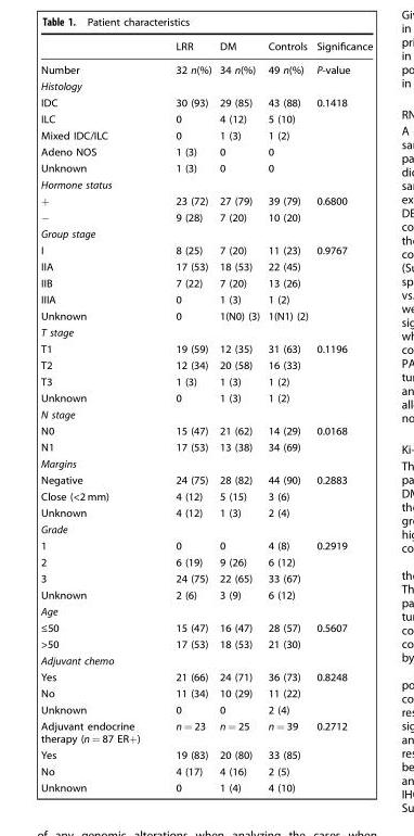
<table><thead><tr><td></td><td>LRR</td><td>DM</td><td>Controls</td><td>Significance</td></tr></thead><tbody><tr><td>Number</td><td>32 n(%)</td><td>34 n(%)</td><td>49 n(%)</td><td>P-value</td></tr><tr><td colspan="5">Histology</td></tr><tr><td>IDC</td><td>30 (93)</td><td>29 (85)</td><td>43 (88)</td><td rowspan="5">0.1418</td></tr><tr><td>ILC</td><td>0</td><td>4 (12)</td><td>5 (10)</td></tr><tr><td>Mixed IDC/ILC</td><td>0</td><td>1 (3)</td><td>1 (2)</td></tr><tr><td>Adeno NOS</td><td>1 (3)</td><td>0</td><td>0</td></tr><tr><td>Unknown</td><td>1 (3)</td><td>0</td><td>0</td></tr><tr><td colspan="5">Hormone status</td></tr><tr><td>+</td><td>23 (72)</td><td>27 (79)</td><td>39 (79)</td><td rowspan="2">0.6800</td></tr><tr><td>−</td><td>9 (28)</td><td>7 (20)</td><td>10 (20)</td></tr><tr><td colspan="5">Group stage</td></tr><tr><td>I</td><td>8 (25)</td><td>7 (20)</td><td>11 (23)</td><td rowspan="5">0.9767</td></tr><tr><td>IIA</td><td>17 (53)</td><td>18 (53)</td><td>22 (45)</td></tr><tr><td>IIB</td><td>7 (22)</td><td>7 (20)</td><td>13 (26)</td></tr><tr><td>IIIA</td><td>0</td><td>1 (3)</td><td>1 (2)</td></tr><tr><td>Unknown</td><td>0</td><td>1(N0) (3)</td><td>1(N1) (2)</td></tr><tr><td colspan="5">T stage</td></tr><tr><td>T1</td><td>19 (59)</td><td>12 (35)</td><td>31 (63)</td><td rowspan="4">0.1196</td></tr><tr><td>T2</td><td>12 (34)</td><td>20 (58)</td><td>16 (33)</td></tr><tr><td>T3</td><td>1 (3)</td><td>1 (3)</td><td>1 (2)</td></tr><tr><td>Unknown</td><td>0</td><td>1 (3)</td><td>1 (2)</td></tr><tr><td colspan="5">N stage</td></tr><tr><td>N0</td><td>15 (47)</td><td>21 (62)</td><td>14 (29)</td><td rowspan="2">0.0168</td></tr><tr><td>N1</td><td>17 (53)</td><td>13 (38)</td><td>34 (69)</td></tr><tr><td colspan="5">Margins</td></tr><tr><td>Negative</td><td>24 (75)</td><td>28 (82)</td><td>44 (90)</td><td rowspan="3">0.2883</td></tr><tr><td>Close (&lt;2 mm)</td><td>4 (12)</td><td>5 (15)</td><td>3 (6)</td></tr><tr><td>Unknown</td><td>4 (12)</td><td>1 (3)</td><td>2 (4)</td></tr><tr><td colspan="5">Grade</td></tr><tr><td>1</td><td>0</td><td>0</td><td>4 (8)</td><td rowspan="4">0.2919</td></tr><tr><td>2</td><td>6 (19)</td><td>9 (26)</td><td>6 (12)</td></tr><tr><td>3</td><td>24 (75)</td><td>22 (65)</td><td>33 (67)</td></tr><tr><td>Unknown</td><td>2 (6)</td><td>3 (9)</td><td>6 (12)</td></tr><tr><td colspan="5">Age</td></tr><tr><td>≤50</td><td>15 (47)</td><td>16 (47)</td><td>28 (57)</td><td rowspan="2">0.5607</td></tr><tr><td>&gt;50</td><td>17 (53)</td><td>18 (53)</td><td>21 (30)</td></tr><tr><td colspan="5">Adjuvant chemo</td></tr><tr><td>Yes</td><td>21 (66)</td><td>24 (71)</td><td>36 (73)</td><td rowspan="3">0.8248</td></tr><tr><td>No</td><td>11 (34)</td><td>10 (29)</td><td>11 (22)</td></tr><tr><td>Unknown</td><td>0</td><td>0</td><td>2 (4)</td></tr><tr><td>Adjuvant endocrine therapy (n = 87 ER+)</td><td>n = 23</td><td>n = 25</td><td>n = 39</td><td rowspan="4">0.2712</td></tr><tr><td>Yes</td><td>19 (83)</td><td>20 (80)</td><td>33 (85)</td></tr><tr><td>No</td><td>4 (17)</td><td>4 (16)</td><td>2 (5)</td></tr><tr><td>Unknown</td><td>0</td><td>1 (4)</td><td>4 (10)</td></tr></tbody></table>